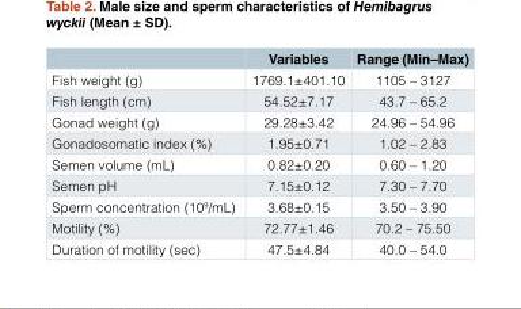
<table><thead><tr><td></td><td>Variables</td><td>Range (Min–Max)</td></tr></thead><tbody><tr><td>Fish weight (g)</td><td>1769.1±401.10</td><td>1105 – 3127</td></tr><tr><td>Fish length (cm)</td><td>54.52±7.17</td><td>43.7 – 65.2</td></tr><tr><td>Gonad weight (g)</td><td>29.28±3.42</td><td>24.96 – 54.96</td></tr><tr><td>Gonadosomatic index (%)</td><td>1.95±0.71</td><td>1.02 – 2.83</td></tr><tr><td>Semen volume (mL)</td><td>0.82±0.20</td><td>0.60 – 1.20</td></tr><tr><td>Semen pH</td><td>7.15±0.12</td><td>7.30 – 7.70</td></tr><tr><td>Sperm concentration (10<sup>9</sup>/mL)</td><td>3.68±0.15</td><td>3.50 – 3.90</td></tr><tr><td>Motility (%)</td><td>72.77±1.46</td><td>70.2 – 75.50</td></tr><tr><td>Duration of motility (sec)</td><td>47.5±4.84</td><td>40.0 – 54.0</td></tr></tbody></table>